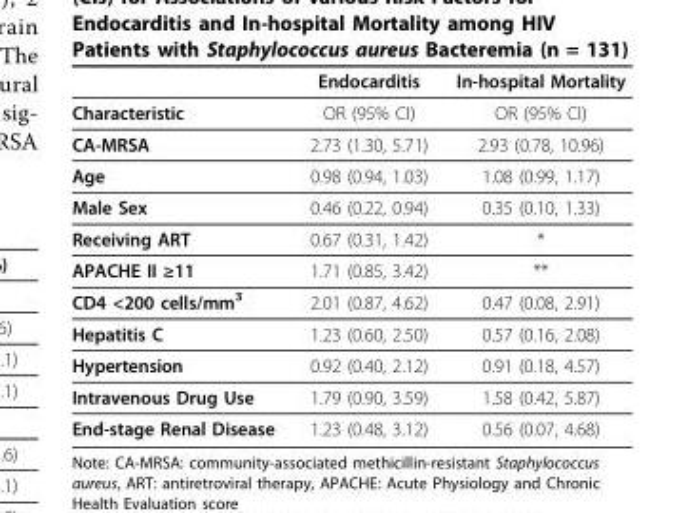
<table><thead><tr><td></td><td>Endocarditis</td><td>In-hospital Mortality</td></tr></thead><tbody><tr><td>Characteristic</td><td>OR (95% CI)</td><td>OR (95% CI)</td></tr><tr><td>CA-MRSA</td><td>2.73 (1.30, 5.71)</td><td>2.93 (0.78, 10.96)</td></tr><tr><td>Age</td><td>0.98 (0.94, 1.03)</td><td>1.08 (0.99, 1.17)</td></tr><tr><td>Male Sex</td><td>0.46 (0.22, 0.94)</td><td>0.35 (0.10, 1.33)</td></tr><tr><td>Receiving ART</td><td>0.67 (0.31, 1.42)</td><td>*</td></tr><tr><td>APACHE II ≥11</td><td>1.71 (0.85, 3.42)</td><td>**</td></tr><tr><td>CD4 &lt;200 cells/mm<sup>3</sup></td><td>2.01 (0.87, 4.62)</td><td>0.47 (0.08, 2.91)</td></tr><tr><td>Hepatitis C</td><td>1.23 (0.60, 2.50)</td><td>0.57 (0.16, 2.08)</td></tr><tr><td>Hypertension</td><td>0.92 (0.40, 2.12)</td><td>0.91 (0.18, 4.57)</td></tr><tr><td>Intravenous Drug Use</td><td>1.79 (0.90, 3.59)</td><td>1.58 (0.42, 5.87)</td></tr><tr><td>End-stage Renal Disease</td><td>1.23 (0.48, 3.12)</td><td>0.56 (0.07, 4.68)</td></tr></tbody></table>